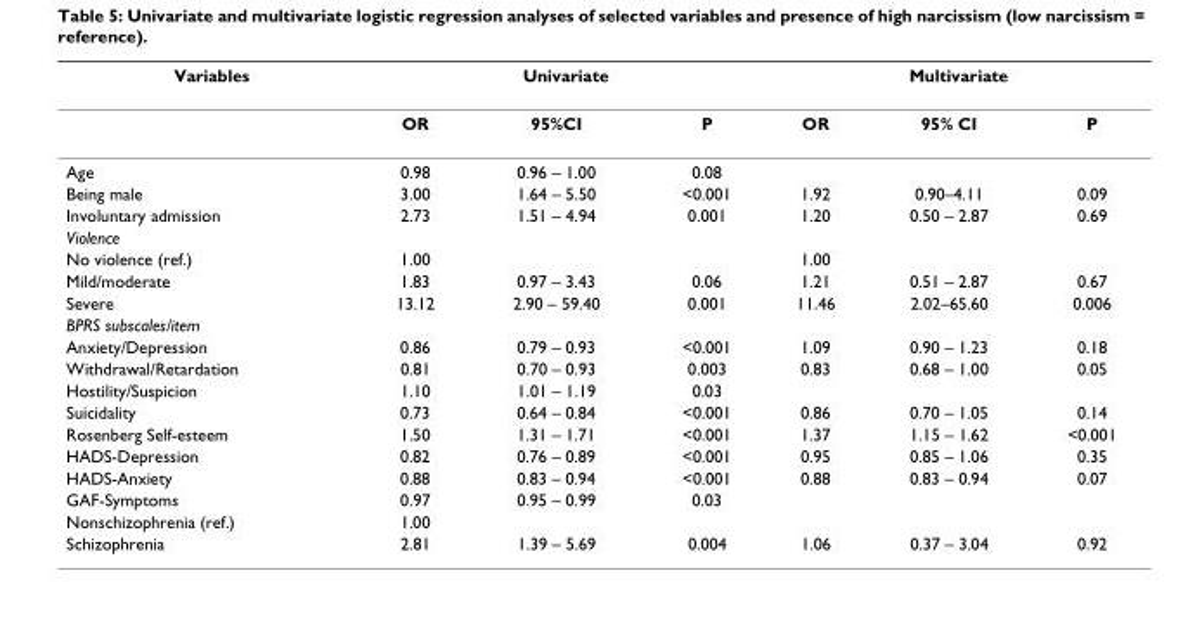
<table><thead><tr><td rowspan="2">Variables</td><td colspan="3">Univariate</td><td colspan="3">Multivariate</td></tr><tr><td>OR</td><td>95%CI</td><td>P</td><td>OR</td><td>95% CI</td><td>P</td></tr></thead><tbody><tr><td>Age</td><td>0.98</td><td>0.96 – 1.00</td><td>0.08</td><td></td><td></td><td></td></tr><tr><td>Being male</td><td>3.00</td><td>1.64 – 5.50</td><td>&lt;0.001</td><td>1.92</td><td>0.90–4.11</td><td>0.09</td></tr><tr><td>Involuntary admission</td><td>2.73</td><td>1.51 – 4.94</td><td>0.001</td><td>1.20</td><td>0.50 – 2.87</td><td>0.69</td></tr><tr><td colspan="7">Violence</td></tr><tr><td>No violence (ref.)</td><td>1.00</td><td></td><td></td><td>1.00</td><td></td><td></td></tr><tr><td>Mild/moderate</td><td>1.83</td><td>0.97 – 3.43</td><td>0.06</td><td>1.21</td><td>0.51 – 2.87</td><td>0.67</td></tr><tr><td>Severe</td><td>13.12</td><td>2.90 – 59.40</td><td>0.001</td><td>11.46</td><td>2.02–65.60</td><td>0.006</td></tr><tr><td colspan="7">BPRS subscales/item</td></tr><tr><td>Anxiety/Depression</td><td>0.86</td><td>0.79 – 0.93</td><td>&lt;0.001</td><td>1.09</td><td>0.90 – 1.23</td><td>0.18</td></tr><tr><td>Withdrawal/Retardation</td><td>0.81</td><td>0.70 – 0.93</td><td>0.003</td><td>0.83</td><td>0.68 – 1.00</td><td>0.05</td></tr><tr><td>Hostility/Suspicion</td><td>1.10</td><td>1.01 – 1.19</td><td>0.03</td><td></td><td></td><td></td></tr><tr><td>Suicidality</td><td>0.73</td><td>0.64 – 0.84</td><td>&lt;0.001</td><td>0.86</td><td>0.70 – 1.05</td><td>0.14</td></tr><tr><td>Rosenberg Self-esteem</td><td>1.50</td><td>1.31 – 1.71</td><td>&lt;0.001</td><td>1.37</td><td>1.15 – 1.62</td><td>&lt;0.001</td></tr><tr><td>HADS-Depression</td><td>0.82</td><td>0.76 – 0.89</td><td>&lt;0.001</td><td>0.95</td><td>0.85 – 1.06</td><td>0.35</td></tr><tr><td>HADS-Anxiety</td><td>0.88</td><td>0.83 – 0.94</td><td>&lt;0.001</td><td>0.88</td><td>0.83 – 0.94</td><td>0.07</td></tr><tr><td>GAF-Symptoms</td><td>0.97</td><td>0.95 – 0.99</td><td>0.03</td><td></td><td></td><td></td></tr><tr><td>Nonschizophrenia (ref.)</td><td>1.00</td><td></td><td></td><td></td><td></td><td></td></tr><tr><td>Schizophrenia</td><td>2.81</td><td>1.39 – 5.69</td><td>0.004</td><td>1.06</td><td>0.37 – 3.04</td><td>0.92</td></tr></tbody></table>